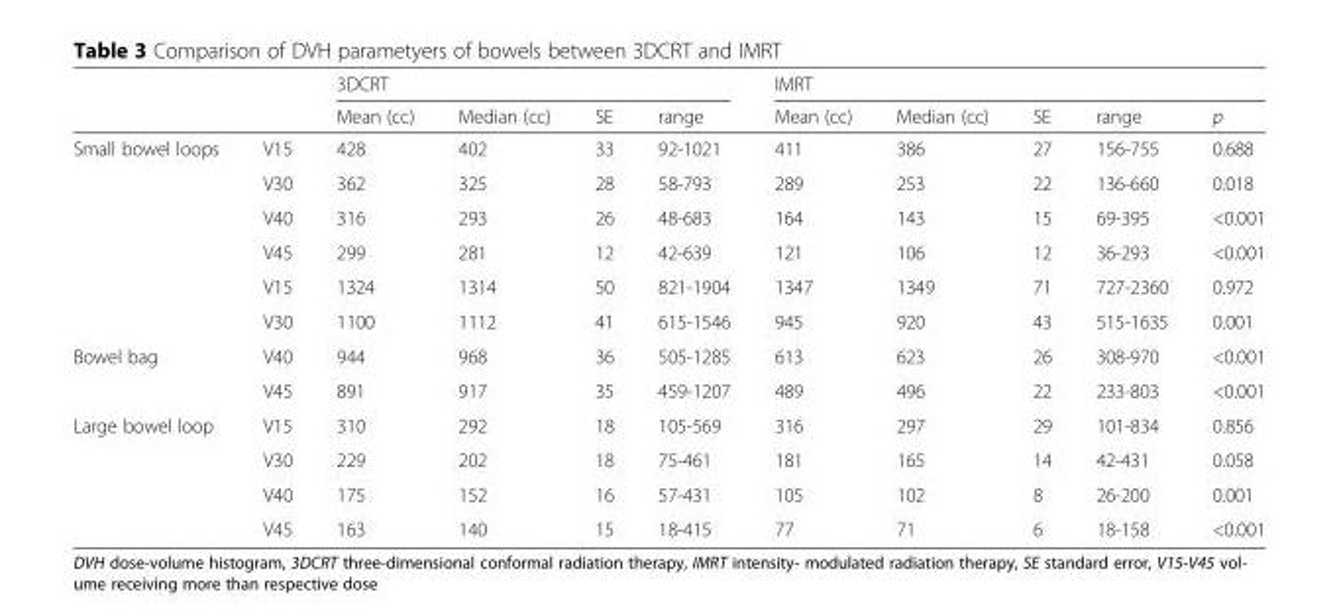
<table><thead><tr><td rowspan="2"></td><td rowspan="2"></td><td colspan="4">3DCRT</td><td colspan="5">IMRT</td></tr><tr><td>Mean (cc)</td><td>Median (cc)</td><td>SE</td><td>range</td><td>Mean (cc)</td><td>Median (cc)</td><td>SE</td><td>range</td><td>p</td></tr></thead><tbody><tr><td rowspan="6">Small bowel loops</td><td>V15</td><td>428</td><td>402</td><td>33</td><td>92-1021</td><td>411</td><td>386</td><td>27</td><td>156-755</td><td>0.688</td></tr><tr><td>V30</td><td>362</td><td>325</td><td>28</td><td>58-793</td><td>289</td><td>253</td><td>22</td><td>136-660</td><td>0.018</td></tr><tr><td>V40</td><td>316</td><td>293</td><td>26</td><td>48-683</td><td>164</td><td>143</td><td>15</td><td>69-395</td><td>&lt;0.001</td></tr><tr><td>V45</td><td>299</td><td>281</td><td>12</td><td>42-639</td><td>121</td><td>106</td><td>12</td><td>36-293</td><td>&lt;0.001</td></tr><tr><td>V15</td><td>1324</td><td>1314</td><td>50</td><td>821-1904</td><td>1347</td><td>1349</td><td>71</td><td>727-2360</td><td>0.972</td></tr><tr><td>V30</td><td>1100</td><td>1112</td><td>41</td><td>615-1546</td><td>945</td><td>920</td><td>43</td><td>515-1635</td><td>0.001</td></tr><tr><td rowspan="2">Bowel bag</td><td>V40</td><td>944</td><td>968</td><td>36</td><td>505-1285</td><td>613</td><td>623</td><td>26</td><td>308-970</td><td>&lt;0.001</td></tr><tr><td>V45</td><td>891</td><td>917</td><td>35</td><td>459-1207</td><td>489</td><td>496</td><td>22</td><td>233-803</td><td>&lt;0.001</td></tr><tr><td rowspan="4">Large bowel loop</td><td>V15</td><td>310</td><td>292</td><td>18</td><td>105-569</td><td>316</td><td>297</td><td>29</td><td>101-834</td><td>0.856</td></tr><tr><td>V30</td><td>229</td><td>202</td><td>18</td><td>75-461</td><td>181</td><td>165</td><td>14</td><td>42-431</td><td>0.058</td></tr><tr><td>V40</td><td>175</td><td>152</td><td>16</td><td>57-431</td><td>105</td><td>102</td><td>8</td><td>26-200</td><td>0.001</td></tr><tr><td>V45</td><td>163</td><td>140</td><td>15</td><td>18-415</td><td>77</td><td>71</td><td>6</td><td>18-158</td><td>&lt;0.001</td></tr></tbody></table>